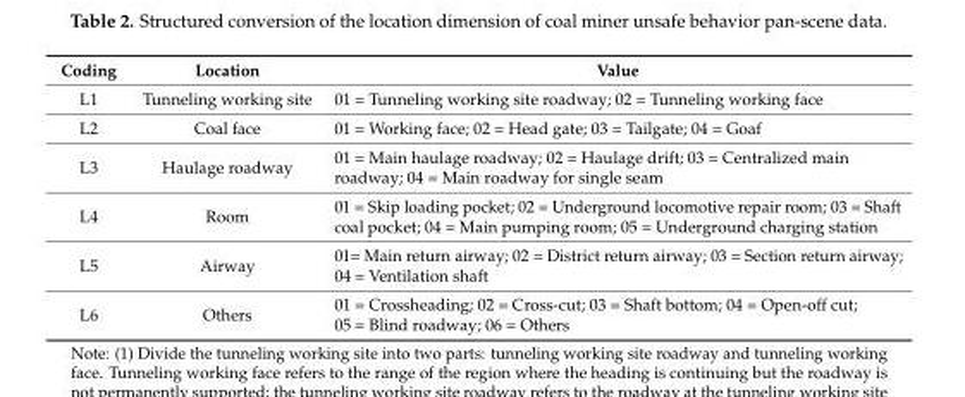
<table><thead><tr><td>Coding</td><td>Location</td><td>Value</td></tr></thead><tbody><tr><td>L1</td><td>Tunneling working site</td><td>01 = Tunneling working site roadway; 02 = Tunneling working face</td></tr><tr><td>L2</td><td>Coal face</td><td>01 = Working face; 02 = Head gate; 03 = Tailgate; 04 = Goaf</td></tr><tr><td>L3</td><td>Haulage roadway</td><td>01 = Main haulage roadway; 02 = Haulage drift; 03 = Centralized main roadway; 04 = Main roadway for single seam</td></tr><tr><td>L4</td><td>Room</td><td>01 = Skip loading pocket; 02 = Underground locomotive repair room; 03 = Shaft coal pocket; 04 = Main pumping room; 05 = Underground charging station</td></tr><tr><td>L5</td><td>Airway</td><td>01= Main return airway; 02 = District return airway; 03 = Section return airway; 04 = Ventilation shaft</td></tr><tr><td>L6</td><td>Others</td><td>01 = Crossheading; 02 = Cross-cut; 03 = Shaft bottom; 04 = Open-off cut; 05 = Blind roadway; 06 = Others</td></tr></tbody></table>